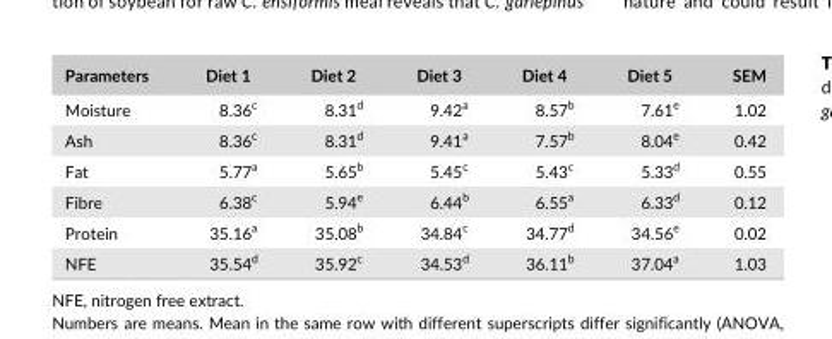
<table><thead><tr><td>Parameters</td><td>Diet 1</td><td>Diet 2</td><td>Diet 3</td><td>Diet 4</td><td>Diet 5</td><td>SEM</td></tr></thead><tbody><tr><td>Moisture</td><td>8.36<sup>c</sup></td><td>8.31<sup>d</sup></td><td>9.42<sup>a</sup></td><td>8.57<sup>b</sup></td><td>7.61<sup>e</sup></td><td>1.02</td></tr><tr><td>Ash</td><td>8.36<sup>c</sup></td><td>8.31<sup>d</sup></td><td>9.41<sup>a</sup></td><td>7.57<sup>b</sup></td><td>8.04<sup>e</sup></td><td>0.42</td></tr><tr><td>Fat</td><td>5.77<sup>a</sup></td><td>5.65<sup>b</sup></td><td>5.45<sup>c</sup></td><td>5.43<sup>c</sup></td><td>5.33<sup>d</sup></td><td>0.55</td></tr><tr><td>Fibre</td><td>6.38<sup>c</sup></td><td>5.94<sup>e</sup></td><td>6.44<sup>b</sup></td><td>6.55<sup>a</sup></td><td>6.33<sup>d</sup></td><td>0.12</td></tr><tr><td>Protein</td><td>35.16<sup>a</sup></td><td>35.08<sup>b</sup></td><td>34.84<sup>c</sup></td><td>34.77<sup>d</sup></td><td>34.56<sup>e</sup></td><td>0.02</td></tr><tr><td>NFE</td><td>35.54<sup>d</sup></td><td>35.92<sup>c</sup></td><td>34.53<sup>d</sup></td><td>36.11<sup>b</sup></td><td>37.04<sup>a</sup></td><td>1.03</td></tr></tbody></table>